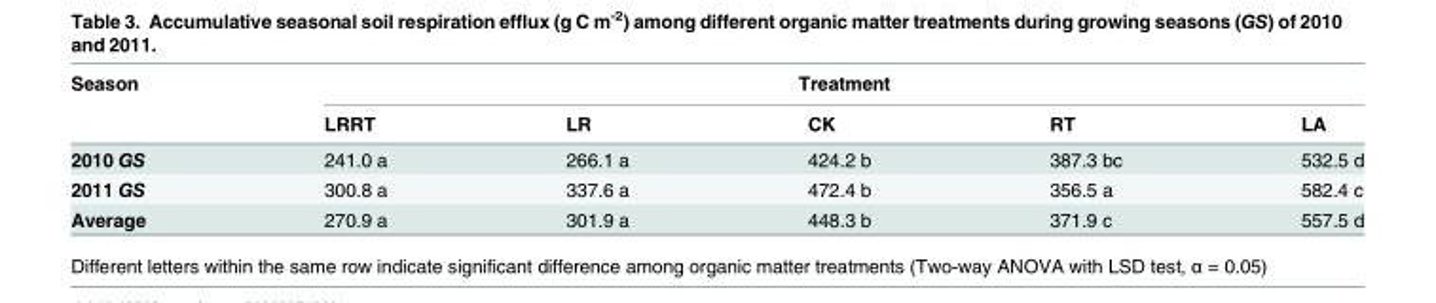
<table><thead><tr><td rowspan="2">Season</td><td colspan="5">Treatment</td></tr><tr><td>LRRT</td><td>LR</td><td>CK</td><td>RT</td><td>LA</td></tr></thead><tbody><tr><td>2010 GS</td><td>241.0 a</td><td>266.1 a</td><td>424.2 b</td><td>387.3 bc</td><td>532.5 d</td></tr><tr><td>2011 GS</td><td>300.8 a</td><td>337.6 a</td><td>472.4 b</td><td>356.5 a</td><td>582.4 c</td></tr><tr><td>Average</td><td>270.9 a</td><td>301.9 a</td><td>448.3 b</td><td>371.9 c</td><td>557.5 d</td></tr></tbody></table>